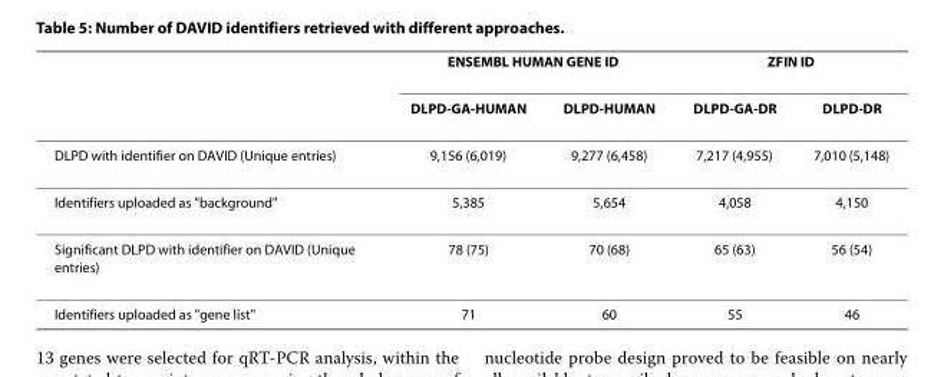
<table><thead><tr><td rowspan="2"></td><td colspan="2">ENSEMBL HUMAN GENE ID</td><td colspan="2">ZFIN ID</td></tr><tr><td>DLPD-GA-HUMAN</td><td>DLPD-HUMAN</td><td>DLPD-GA-DR</td><td>DLPD-DR</td></tr></thead><tbody><tr><td>DLPD with identifier on DAVID (Unique entries)</td><td>9,156 (6,019)</td><td>9,277 (6,458)</td><td>7,217 (4,955)</td><td>7,010 (5,148)</td></tr><tr><td>Identifiers uploaded as &quot;background&quot;</td><td>5,385</td><td>5,654</td><td>4,058</td><td>4,150</td></tr><tr><td>Significant DLPD with identifier on DAVID (Unique entries)</td><td>78 (75)</td><td>70 (68)</td><td>65 (63)</td><td>56 (54)</td></tr><tr><td>Identifiers uploaded as &quot;gene list&quot;</td><td>71</td><td>60</td><td>55</td><td>46</td></tr></tbody></table>